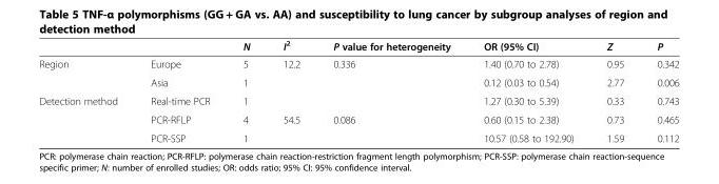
<table><thead><tr><td></td><td></td><td>N</td><td>I2</td><td>P value for heterogeneity</td><td>OR (95% CI)</td><td>Z</td><td>P</td></tr></thead><tbody><tr><td rowspan="2">Region</td><td>Europe</td><td>5</td><td>12.2</td><td>0.336</td><td>1.40 (0.70 to 2.78)</td><td>0.95</td><td>0.342</td></tr><tr><td>Asia</td><td>1</td><td></td><td></td><td>0.12 (0.03 to 0.54)</td><td>2.77</td><td>0.006</td></tr><tr><td rowspan="3">Detection method</td><td>Real-time PCR</td><td>1</td><td></td><td></td><td>1.27 (0.30 to 5.39)</td><td>0.33</td><td>0.743</td></tr><tr><td>PCR-RFLP</td><td>4</td><td>54.5</td><td>0.086</td><td>0.60 (0.15 to 2.38)</td><td>0.73</td><td>0.465</td></tr><tr><td>PCR-SSP</td><td>1</td><td></td><td></td><td>10.57 (0.58 to 192.90)</td><td>1.59</td><td>0.112</td></tr></tbody></table>